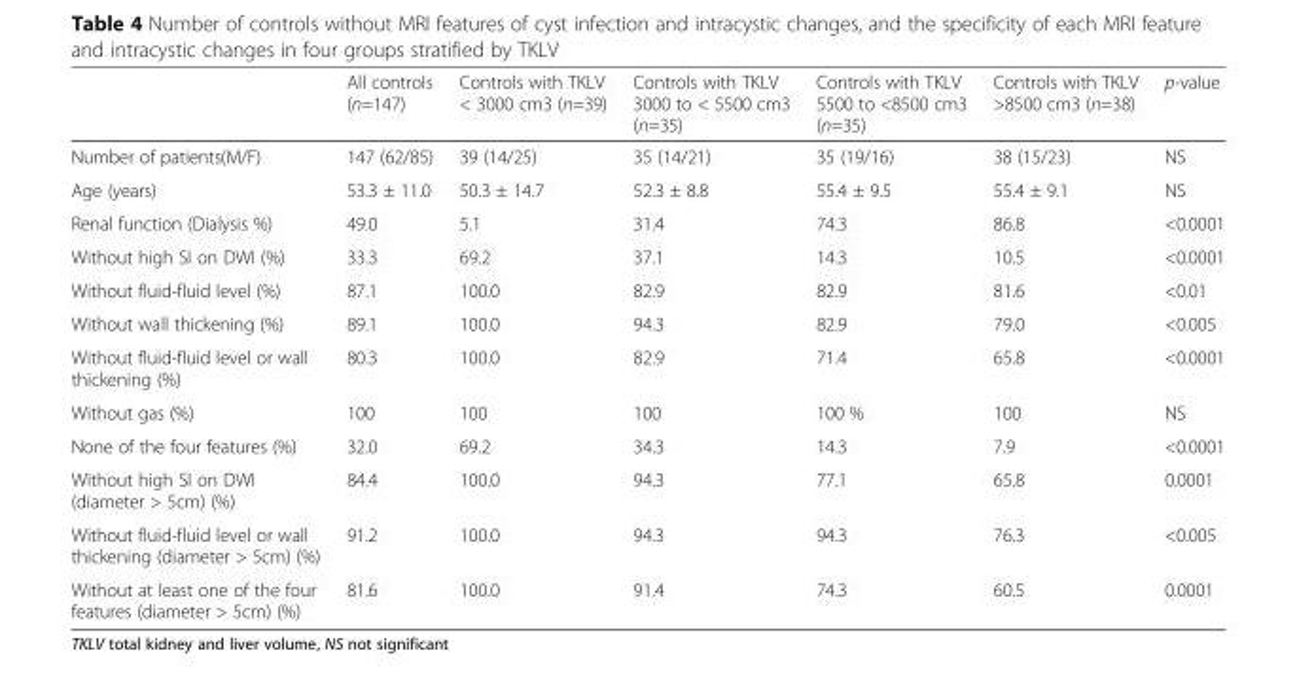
<table><thead><tr><td></td><td>All controls (n=147)</td><td>Controls with TKLV &lt; 3000 cm3 (n=39)</td><td>Controls with TKLV 3000 to &lt; 5500 cm3 (n=35)</td><td>Controls with TKLV 5500 to &lt;8500 cm3 (n=35)</td><td>Controls with TKLV &gt;8500 cm3 (n=38)</td><td>p-value</td></tr></thead><tbody><tr><td>Number of patients(M/F)</td><td>147 (62/85)</td><td>39 (14/25)</td><td>35 (14/21)</td><td>35 (19/16)</td><td>38 (15/23)</td><td>NS</td></tr><tr><td>Age (years)</td><td>53.3 ± 11.0</td><td>50.3 ± 14.7</td><td>52.3 ± 8.8</td><td>55.4 ± 9.5</td><td>55.4 ± 9.1</td><td>NS</td></tr><tr><td>Renal function (Dialysis %)</td><td>49.0</td><td>5.1</td><td>31.4</td><td>74.3</td><td>86.8</td><td>&lt;0.0001</td></tr><tr><td>Without high SI on DWI (%)</td><td>33.3</td><td>69.2</td><td>37.1</td><td>14.3</td><td>10.5</td><td>&lt;0.0001</td></tr><tr><td>Without fluid-fluid level (%)</td><td>87.1</td><td>100.0</td><td>82.9</td><td>82.9</td><td>81.6</td><td>&lt;0.01</td></tr><tr><td>Without wall thickening (%)</td><td>89.1</td><td>100.0</td><td>94.3</td><td>82.9</td><td>79.0</td><td>&lt;0.005</td></tr><tr><td>Without fluid-fluid level or wall thickening (%)</td><td>80.3</td><td>100.0</td><td>82.9</td><td>71.4</td><td>65.8</td><td>&lt;0.0001</td></tr><tr><td>Without gas (%)</td><td>100</td><td>100</td><td>100</td><td>100 %</td><td>100</td><td>NS</td></tr><tr><td>None of the four features (%)</td><td>32.0</td><td>69.2</td><td>34.3</td><td>14.3</td><td>7.9</td><td>&lt;0.0001</td></tr><tr><td>Without high SI on DWI (diameter &gt; 5cm) (%)</td><td>84.4</td><td>100.0</td><td>94.3</td><td>77.1</td><td>65.8</td><td>0.0001</td></tr><tr><td>Without fluid-fluid level or wall thickening (diameter &gt; 5cm) (%)</td><td>91.2</td><td>100.0</td><td>94.3</td><td>94.3</td><td>76.3</td><td>&lt;0.005</td></tr><tr><td>Without at least one of the four features (diameter &gt; 5cm) (%)</td><td>81.6</td><td>100.0</td><td>91.4</td><td>74.3</td><td>60.5</td><td>0.0001</td></tr></tbody></table>